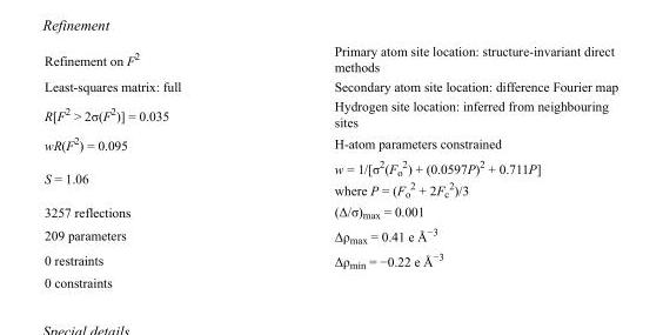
<table><tbody><tr><td>Refinement on F<sup>2</sup></td><td>Primary atom site location: structure-invariant direct methods</td></tr><tr><td>Least-squares matrix: full</td><td>Secondary atom site location: difference Fourier map</td></tr><tr><td>R[F<sup>2</sup> &gt; 2σ(F<sup>2</sup>)] = 0.035</td><td>Hydrogen site location: inferred from neighbouring sites</td></tr><tr><td>wR(F<sup>2</sup>) = 0.095</td><td>H-atom parameters constrained</td></tr><tr><td>S = 1.06</td><td>w = 1/[σ<sup>2</sup>(F<sub>o</sub> <sup>2</sup>) + (0.0597P)<sup>2</sup> + 0.711P] where P = (F<sub>o</sub> <sup>2</sup> + 2F<sub>c</sub> <sup>2</sup>)/3</td></tr><tr><td>3257 reflections</td><td>(Δ/σ)<sub>max</sub> = 0.001</td></tr><tr><td>209 parameters</td><td>Δρ<sub>max</sub> = 0.41 e Å<sup>−3</sup></td></tr><tr><td>0 restraints</td><td>Δρ<sub>min</sub> = −0.22 e Å<sup>−3</sup></td></tr><tr><td>0 constraints</td><td></td></tr></tbody></table>